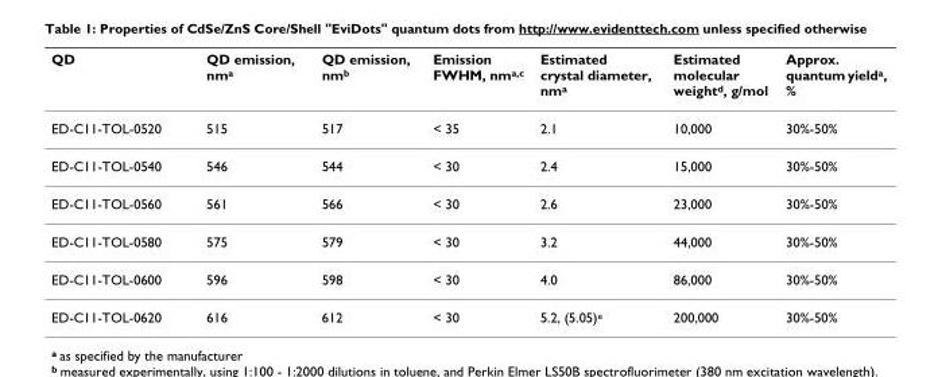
<table><thead><tr><td>QD</td><td>QD emission, nm<sup>a</sup></td><td>QD emission, nm<sup>b</sup></td><td>Emission FWHM, nm<sup>a,c</sup></td><td>Estimated crystal diameter, nm<sup>a</sup></td><td>Estimated molecular weight<sup>d</sup>, g/mol</td><td>Approx. quantum yield<sup>a</sup>, %</td></tr></thead><tbody><tr><td>ED-C11-TOL-0520</td><td>515</td><td>517</td><td>&lt; 35</td><td>2.1</td><td>10,000</td><td>30%-50%</td></tr><tr><td>ED-C11-TOL-0540</td><td>546</td><td>544</td><td>&lt; 30</td><td>2.4</td><td>15,000</td><td>30%-50%</td></tr><tr><td>ED-C11-TOL-0560</td><td>561</td><td>566</td><td>&lt; 30</td><td>2.6</td><td>23,000</td><td>30%-50%</td></tr><tr><td>ED-C11-TOL-0580</td><td>575</td><td>579</td><td>&lt; 30</td><td>3.2</td><td>44,000</td><td>30%-50%</td></tr><tr><td>ED-C11-TOL-0600</td><td>596</td><td>598</td><td>&lt; 30</td><td>4.0</td><td>86,000</td><td>30%-50%</td></tr><tr><td>ED-C11-TOL-0620</td><td>616</td><td>612</td><td>&lt; 30</td><td>5.2, (5.05)<sup>e</sup></td><td>200,000</td><td>30%-50%</td></tr></tbody></table>